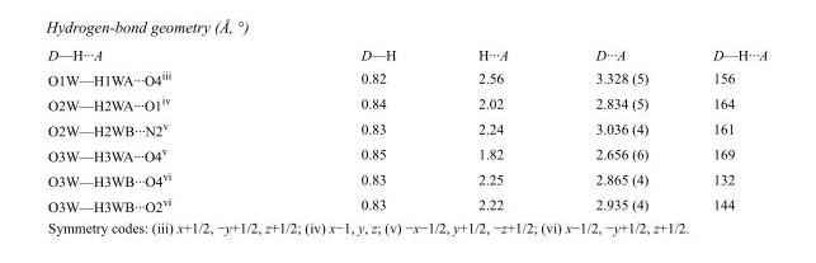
<table><tbody><tr><td>D—H···A</td><td>D—H</td><td>H···A</td><td>D···A</td><td>D—H···A</td></tr><tr><td>O1W—H1WA···O4<sup>iii</sup></td><td>0.82</td><td>2.56</td><td>3.328 (5)</td><td>156</td></tr><tr><td>O2W—H2WA···O1<sup>iv</sup></td><td>0.84</td><td>2.02</td><td>2.834 (5)</td><td>164</td></tr><tr><td>O2W—H2WB···N2<sup>v</sup></td><td>0.83</td><td>2.24</td><td>3.036 (4)</td><td>161</td></tr><tr><td>O3W—H3WA···O4<sup>v</sup></td><td>0.85</td><td>1.82</td><td>2.656 (6)</td><td>169</td></tr><tr><td>O3W—H3WB···O4<sup>vi</sup></td><td>0.83</td><td>2.25</td><td>2.865 (4)</td><td>132</td></tr><tr><td>O3W—H3WB···O2<sup>vi</sup></td><td>0.83</td><td>2.22</td><td>2.935 (4)</td><td>144</td></tr></tbody></table>